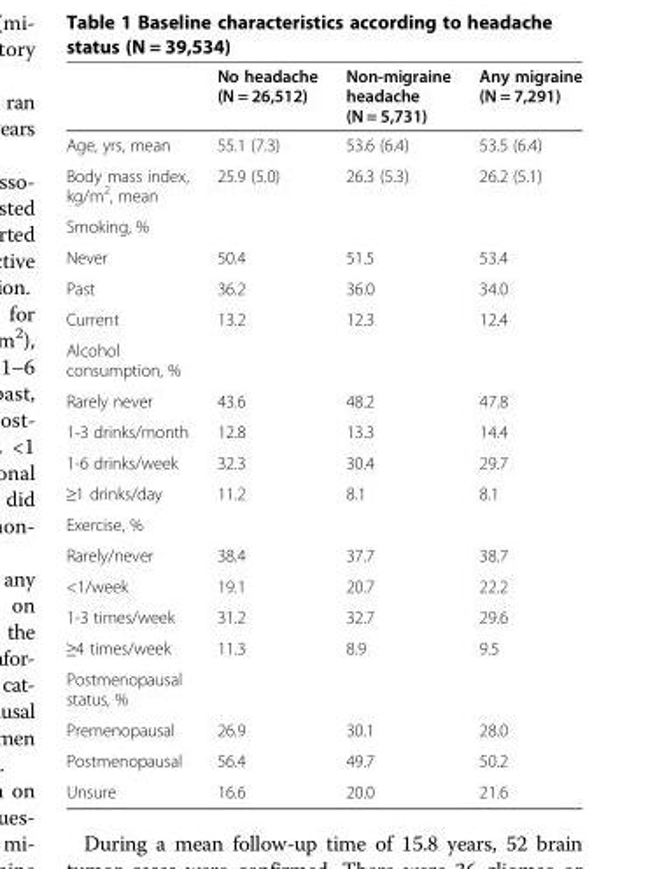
<table><thead><tr><td></td><td>No headache (N = 26,512)</td><td>Non-migraine headache (N = 5,731)</td><td>Any migraine (N = 7,291)</td></tr></thead><tbody><tr><td>Age, yrs, mean</td><td>55.1 (7.3)</td><td>53.6 (6.4)</td><td>53.5 (6.4)</td></tr><tr><td>Body mass index, kg/m<sup>2</sup>, mean</td><td>25.9 (5.0)</td><td>26.3 (5.3)</td><td>26.2 (5.1)</td></tr><tr><td colspan="4">Smoking, %</td></tr><tr><td>Never</td><td>50.4</td><td>51.5</td><td>53.4</td></tr><tr><td>Past</td><td>36.2</td><td>36.0</td><td>34.0</td></tr><tr><td>Current</td><td>13.2</td><td>12.3</td><td>12.4</td></tr><tr><td colspan="4">Alcohol consumption, %</td></tr><tr><td>Rarely never</td><td>43.6</td><td>48.2</td><td>47.8</td></tr><tr><td>1-3 drinks/month</td><td>12.8</td><td>13.3</td><td>14.4</td></tr><tr><td>1-6 drinks/week</td><td>32.3</td><td>30.4</td><td>29.7</td></tr><tr><td>≥1 drinks/day</td><td>11.2</td><td>8.1</td><td>8.1</td></tr><tr><td colspan="4">Exercise, %</td></tr><tr><td>Rarely/never</td><td>38.4</td><td>37.7</td><td>38.7</td></tr><tr><td>&lt;1/week</td><td>19.1</td><td>20.7</td><td>22.2</td></tr><tr><td>1-3 times/week</td><td>31.2</td><td>32.7</td><td>29.6</td></tr><tr><td>≥4 times/week</td><td>11.3</td><td>8.9</td><td>9.5</td></tr><tr><td colspan="4">Postmenopausal status, %</td></tr><tr><td>Premenopausal</td><td>26.9</td><td>30.1</td><td>28.0</td></tr><tr><td>Postmenopausal</td><td>56.4</td><td>49.7</td><td>50.2</td></tr><tr><td>Unsure</td><td>16.6</td><td>20.0</td><td>21.6</td></tr></tbody></table>